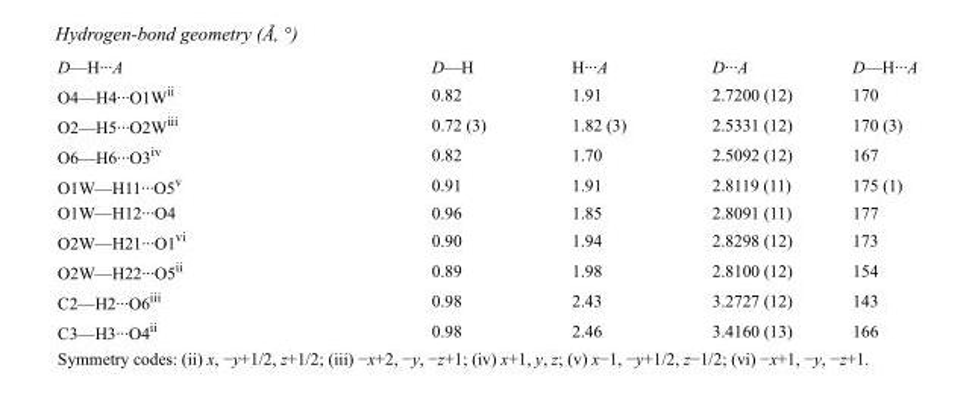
<table><tbody><tr><td>D—H···A</td><td>D—H</td><td>H···A</td><td>D···A</td><td>D—H···A</td></tr><tr><td>O4—H4···O1W<sup>ii</sup></td><td>0.82</td><td>1.91</td><td>2.7200 (12)</td><td>170</td></tr><tr><td>O2—H5···O2W<sup>iii</sup></td><td>0.72 (3)</td><td>1.82 (3)</td><td>2.5331 (12)</td><td>170 (3)</td></tr><tr><td>O6—H6···O3<sup>iv</sup></td><td>0.82</td><td>1.70</td><td>2.5092 (12)</td><td>167</td></tr><tr><td>O1W—H11···O5<sup>v</sup></td><td>0.91</td><td>1.91</td><td>2.8119 (11)</td><td>175 (1)</td></tr><tr><td>O1W—H12···O4</td><td>0.96</td><td>1.85</td><td>2.8091 (11)</td><td>177</td></tr><tr><td>O2W—H21···O1<sup>vi</sup></td><td>0.90</td><td>1.94</td><td>2.8298 (12)</td><td>173</td></tr><tr><td>O2W—H22···O5<sup>ii</sup></td><td>0.89</td><td>1.98</td><td>2.8100 (12)</td><td>154</td></tr><tr><td>C2—H2···O6<sup>iii</sup></td><td>0.98</td><td>2.43</td><td>3.2727 (12)</td><td>143</td></tr><tr><td>C3—H3···O4<sup>ii</sup></td><td>0.98</td><td>2.46</td><td>3.4160 (13)</td><td>166</td></tr></tbody></table>